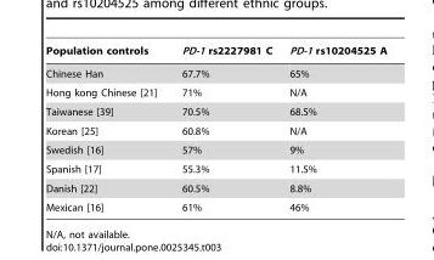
<table><thead><tr><td>Population controls</td><td>PD-1 rs2227981 C</td><td>PD-1 rs10204525 A</td></tr></thead><tbody><tr><td>Chinese Han</td><td>67.7%</td><td>65%</td></tr><tr><td>Hong kong Chinese [21]</td><td>71%</td><td>N/A</td></tr><tr><td>Taiwanese [39]</td><td>70.5%</td><td>68.5%</td></tr><tr><td>Korean [25]</td><td>60.8%</td><td>N/A</td></tr><tr><td>Swedish [16]</td><td>57%</td><td>9%</td></tr><tr><td>Spanish [17]</td><td>55.3%</td><td>11.5%</td></tr><tr><td>Danish [22]</td><td>60.5%</td><td>8.8%</td></tr><tr><td>Mexican [16]</td><td>61%</td><td>46%</td></tr></tbody></table>